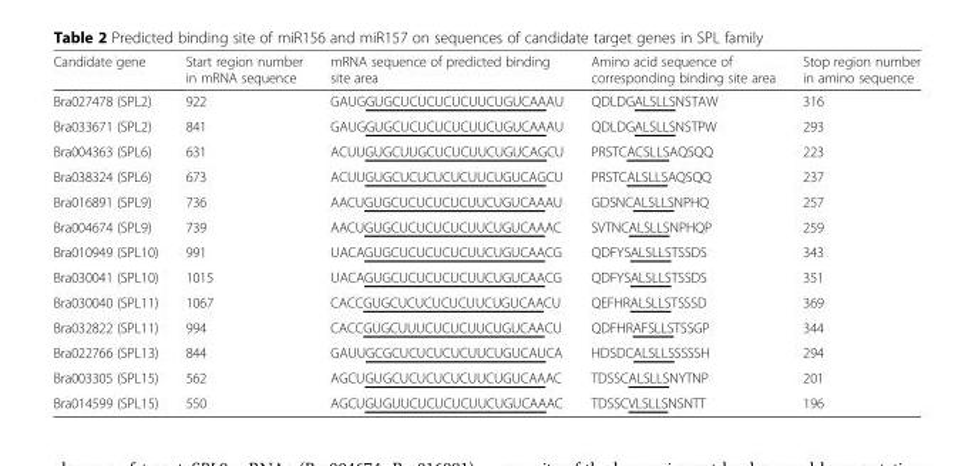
<table><thead><tr><td>Candidate gene</td><td>Start region number in mRNA sequence</td><td>mRNA sequence of predicted binding site area</td><td>Amino acid sequence of corresponding binding site area</td><td>Stop region number in amino sequence</td></tr></thead><tbody><tr><td>Bra027478 (SPL2)</td><td>922</td><td>GAUGGUGCUCUCUCUCUUCUGUCAAAU</td><td>QDLDGALSLLSNSTAW</td><td>316</td></tr><tr><td>Bra033671 (SPL2)</td><td>841</td><td>GAUGGUGCUCUCUCUCUUCUGUCAAAU</td><td>QDLDGALSLLSNSTPW</td><td>293</td></tr><tr><td>Bra004363 (SPL6)</td><td>631</td><td>ACUUGUGCUUGCUCUCUUCUGUCAGCU</td><td>PRSTCACSLLSAQSQQ</td><td>223</td></tr><tr><td>Bra038324 (SPL6)</td><td>673</td><td>ACUUGUGCUCUCUCUCUUCUGUCAGCU</td><td>PRSTCALSLLSAQSQQ</td><td>237</td></tr><tr><td>Bra016891 (SPL9)</td><td>736</td><td>AACUGUGCUCUCUCUCUUCUGUCAAAU</td><td>GDSNCALSLLSNPHQ</td><td>257</td></tr><tr><td>Bra004674 (SPL9)</td><td>739</td><td>AACUGUGCUCUCUCUCUUCUGUCAAAC</td><td>SVTNCALSLLSNPHQP</td><td>259</td></tr><tr><td>Bra010949 (SPL10)</td><td>991</td><td>UACAGUGCUCUCUCUCUUCUGUCAACG</td><td>QDFYSALSLLSTSSDS</td><td>343</td></tr><tr><td>Bra030041 (SPL10)</td><td>1015</td><td>UACAGUGCUCUCUCUCUUCUGUCAACG</td><td>QDFYSALSLLSTSSDS</td><td>351</td></tr><tr><td>Bra030040 (SPL11)</td><td>1067</td><td>CACCGUGCUCUCUCUCUUCUGUCAACU</td><td>QEFHRALSLLSTSSSD</td><td>369</td></tr><tr><td>Bra032822 (SPL11)</td><td>994</td><td>CACCGUGCUUUCUCUCUUCUGUCAACU</td><td>QDFHRAFSLLSTSSGP</td><td>344</td></tr><tr><td>Bra022766 (SPL13)</td><td>844</td><td>GAUUGCGCUCUCUCUCUUCUGUCAUCA</td><td>HDSDCALSLLSSSSSH</td><td>294</td></tr><tr><td>Bra003305 (SPL15)</td><td>562</td><td>AGCUGUGCUCUCUCUCUUCUGUCAAAC</td><td>TDSSCALSLLSNYTNP</td><td>201</td></tr><tr><td>Bra014599 (SPL15)</td><td>550</td><td>AGCUGUGUUCUCUCUCUUCUGUCAAAC</td><td>TDSSCVLSLLSNSNTT</td><td>196</td></tr></tbody></table>